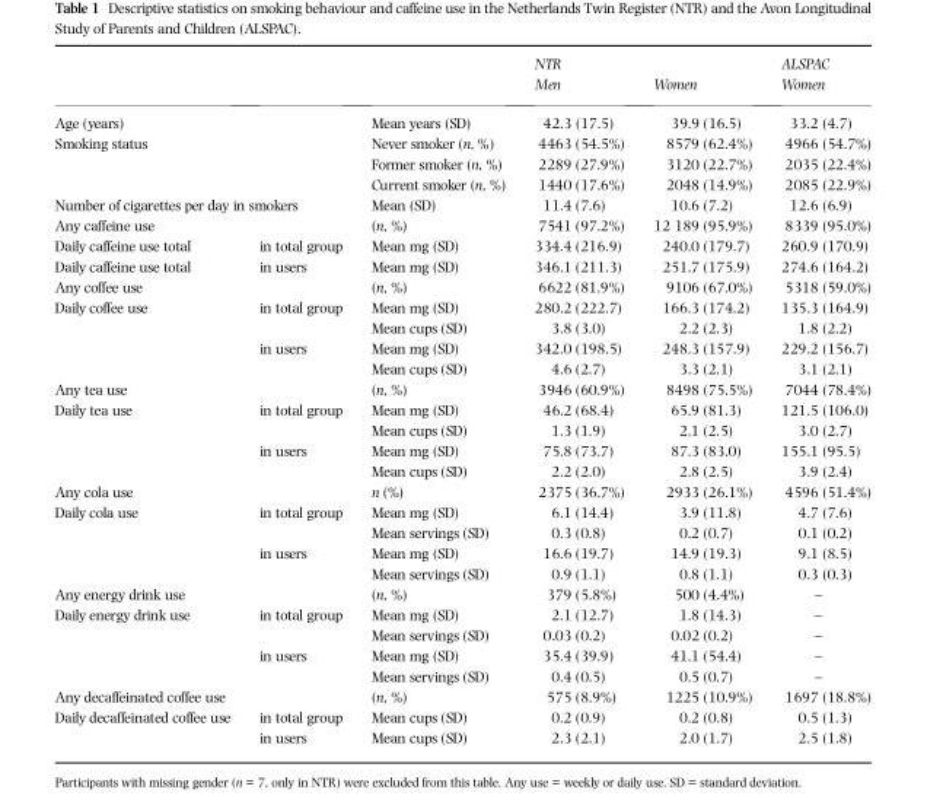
<table><thead><tr><td rowspan="2"></td><td rowspan="2"></td><td rowspan="2"></td><td colspan="2">NTR</td><td rowspan="2">ALSPAC Women</td></tr><tr><td>Men</td><td>Women</td></tr></thead><tbody><tr><td>Age (years)</td><td></td><td>Mean years (SD)</td><td>42.3 (17.5)</td><td>39.9 (16.5)</td><td>33.2 (4.7)</td></tr><tr><td rowspan="3">Smoking status</td><td></td><td>Never smoker (n, %)</td><td>4463 (54.5%)</td><td>8579 (62.4%)</td><td>4966 (54.7%)</td></tr><tr><td></td><td>Former smoker (n, %)</td><td>2289 (27.9%)</td><td>3120 (22.7%)</td><td>2035 (22.4%)</td></tr><tr><td></td><td>Current smoker (n, %)</td><td>1440 (17.6%)</td><td>2048 (14.9%)</td><td>2085 (22.9%)</td></tr><tr><td colspan="2">Number of cigarettes per day in smokers</td><td>Mean (SD)</td><td>11.4 (7.6)</td><td>10.6 (7.2)</td><td>12.6 (6.9)</td></tr><tr><td>Any caffeine use</td><td></td><td>(n, %)</td><td>7541 (97.2%)</td><td>12 189 (95.9%)</td><td>8339 (95.0%)</td></tr><tr><td>Daily caffeine use total</td><td>in total group</td><td>Mean mg (SD)</td><td>334.4 (216.9)</td><td>240.0 (179.7)</td><td>260.9 (170.9)</td></tr><tr><td>Daily caffeine use total</td><td>in users</td><td>Mean mg (SD)</td><td>346.1 (211.3)</td><td>251.7 (175.9)</td><td>274.6 (164.2)</td></tr><tr><td>Any coffee use</td><td></td><td>(n, %)</td><td>6622 (81.9%)</td><td>9106 (67.0%)</td><td>5318 (59.0%)</td></tr><tr><td rowspan="4">Daily coffee use</td><td>in total group</td><td>Mean mg (SD)</td><td>280.2 (222.7)</td><td>166.3 (174.2)</td><td>135.3 (164.9)</td></tr><tr><td></td><td>Mean cups (SD)</td><td>3.8 (3.0)</td><td>2.2 (2.3)</td><td>1.8 (2.2)</td></tr><tr><td>in users</td><td>Mean mg (SD)</td><td>342.0 (198.5)</td><td>248.3 (157.9)</td><td>229.2 (156.7)</td></tr><tr><td></td><td>Mean cups (SD)</td><td>4.6 (2.7)</td><td>3.3 (2.1)</td><td>3.1 (2.1)</td></tr><tr><td>Any tea use</td><td></td><td>(n, %)</td><td>3946 (60.9%)</td><td>8498 (75.5%)</td><td>7044 (78.4%)</td></tr><tr><td rowspan="4">Daily tea use</td><td>in total group</td><td>Mean mg (SD)</td><td>46.2 (68.4)</td><td>65.9 (81.3)</td><td>121.5 (106.0)</td></tr><tr><td></td><td>Mean cups (SD)</td><td>1.3 (1.9)</td><td>2.1 (2.5)</td><td>3.0 (2.7)</td></tr><tr><td>in users</td><td>Mean mg (SD)</td><td>75.8 (73.7)</td><td>87.3 (83.0)</td><td>155.1 (95.5)</td></tr><tr><td></td><td>Mean cups (SD)</td><td>2.2 (2.0)</td><td>2.8 (2.5)</td><td>3.9 (2.4)</td></tr><tr><td>Any cola use</td><td></td><td>n (%)</td><td>2375 (36.7%)</td><td>2933 (26.1%)</td><td>4596 (51.4%)</td></tr><tr><td rowspan="4">Daily cola use</td><td>in total group</td><td>Mean mg (SD)</td><td>6.1 (14.4)</td><td>3.9 (11.8)</td><td>4.7 (7.6)</td></tr><tr><td></td><td>Mean servings (SD)</td><td>0.3 (0.8)</td><td>0.2 (0.7)</td><td>0.1 (0.2)</td></tr><tr><td>in users</td><td>Mean mg (SD)</td><td>16.6 (19.7)</td><td>14.9 (19.3)</td><td>9.1 (8.5)</td></tr><tr><td></td><td>Mean servings (SD)</td><td>0.9 (1.1)</td><td>0.8 (1.1)</td><td>0.3 (0.3)</td></tr><tr><td>Any energy drink use</td><td></td><td>(n, %)</td><td>379 (5.8%)</td><td>500 (4.4%)</td><td>–</td></tr><tr><td rowspan="4">Daily energy drink use</td><td>in total group</td><td>Mean mg (SD)</td><td>2.1 (12.7)</td><td>1.8 (14.3)</td><td>–</td></tr><tr><td></td><td>Mean servings (SD)</td><td>0.03 (0.2)</td><td>0.02 (0.2)</td><td>–</td></tr><tr><td>in users</td><td>Mean mg (SD)</td><td>35.4 (39.9)</td><td>41.1 (54.4)</td><td>–</td></tr><tr><td></td><td>Mean servings (SD)</td><td>0.4 (0.5)</td><td>0.5 (0.7)</td><td>–</td></tr><tr><td>Any decaffeinated coffee use</td><td></td><td>(n, %)</td><td>575 (8.9%)</td><td>1225 (10.9%)</td><td>1697 (18.8%)</td></tr><tr><td rowspan="2">Daily decaffeinated coffee use</td><td>in total group</td><td>Mean cups (SD)</td><td>0.2 (0.9)</td><td>0.2 (0.8)</td><td>0.5 (1.3)</td></tr><tr><td>in users</td><td>Mean cups (SD)</td><td>2.3 (2.1)</td><td>2.0 (1.7)</td><td>2.5 (1.8)</td></tr></tbody></table>